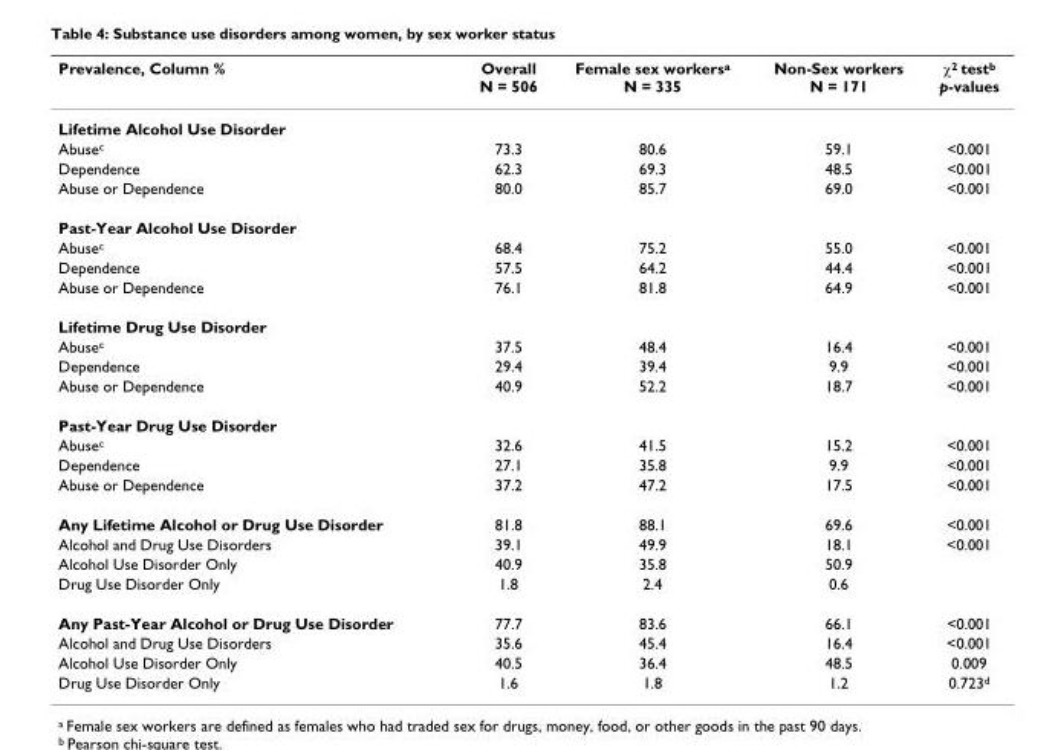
<table><thead><tr><td>Prevalence, Column %</td><td>Overall N = 506</td><td>Female sex workers<sup>a</sup> N = 335</td><td>Non-Sex workers N = 171</td><td>χ<sup>2</sup> test<sup>b</sup> p-values</td></tr></thead><tbody><tr><td colspan="5">Lifetime Alcohol Use Disorder</td></tr><tr><td>Abuse<sup>c</sup></td><td>73.3</td><td>80.6</td><td>59.1</td><td>&lt;0.001</td></tr><tr><td>Dependence</td><td>62.3</td><td>69.3</td><td>48.5</td><td>&lt;0.001</td></tr><tr><td>Abuse or Dependence</td><td>80.0</td><td>85.7</td><td>69.0</td><td>&lt;0.001</td></tr><tr><td colspan="5">Past-Year Alcohol Use Disorder</td></tr><tr><td>Abuse<sup>c</sup></td><td>68.4</td><td>75.2</td><td>55.0</td><td>&lt;0.001</td></tr><tr><td>Dependence</td><td>57.5</td><td>64.2</td><td>44.4</td><td>&lt;0.001</td></tr><tr><td>Abuse or Dependence</td><td>76.1</td><td>81.8</td><td>64.9</td><td>&lt;0.001</td></tr><tr><td colspan="5">Lifetime Drug Use Disorder</td></tr><tr><td>Abuse<sup>c</sup></td><td>37.5</td><td>48.4</td><td>16.4</td><td>&lt;0.001</td></tr><tr><td>Dependence</td><td>29.4</td><td>39.4</td><td>9.9</td><td>&lt;0.001</td></tr><tr><td>Abuse or Dependence</td><td>40.9</td><td>52.2</td><td>18.7</td><td>&lt;0.001</td></tr><tr><td colspan="5">Past-Year Drug Use Disorder</td></tr><tr><td>Abuse<sup>c</sup></td><td>32.6</td><td>41.5</td><td>15.2</td><td>&lt;0.001</td></tr><tr><td>Dependence</td><td>27.1</td><td>35.8</td><td>9.9</td><td>&lt;0.001</td></tr><tr><td>Abuse or Dependence</td><td>37.2</td><td>47.2</td><td>17.5</td><td>&lt;0.001</td></tr><tr><td>Any Lifetime Alcohol or Drug Use Disorder</td><td>81.8</td><td>88.1</td><td>69.6</td><td>&lt;0.001</td></tr><tr><td>Alcohol and Drug Use Disorders</td><td>39.1</td><td>49.9</td><td>18.1</td><td>&lt;0.001</td></tr><tr><td>Alcohol Use Disorder Only</td><td>40.9</td><td>35.8</td><td>50.9</td><td></td></tr><tr><td>Drug Use Disorder Only</td><td>1.8</td><td>2.4</td><td>0.6</td><td></td></tr><tr><td>Any Past-Year Alcohol or Drug Use Disorder</td><td>77.7</td><td>83.6</td><td>66.1</td><td>&lt;0.001</td></tr><tr><td>Alcohol and Drug Use Disorders</td><td>35.6</td><td>45.4</td><td>16.4</td><td>&lt;0.001</td></tr><tr><td>Alcohol Use Disorder Only</td><td>40.5</td><td>36.4</td><td>48.5</td><td>0.009</td></tr><tr><td>Drug Use Disorder Only</td><td>1.6</td><td>1.8</td><td>1.2</td><td>0.723<sup>d</sup></td></tr></tbody></table>